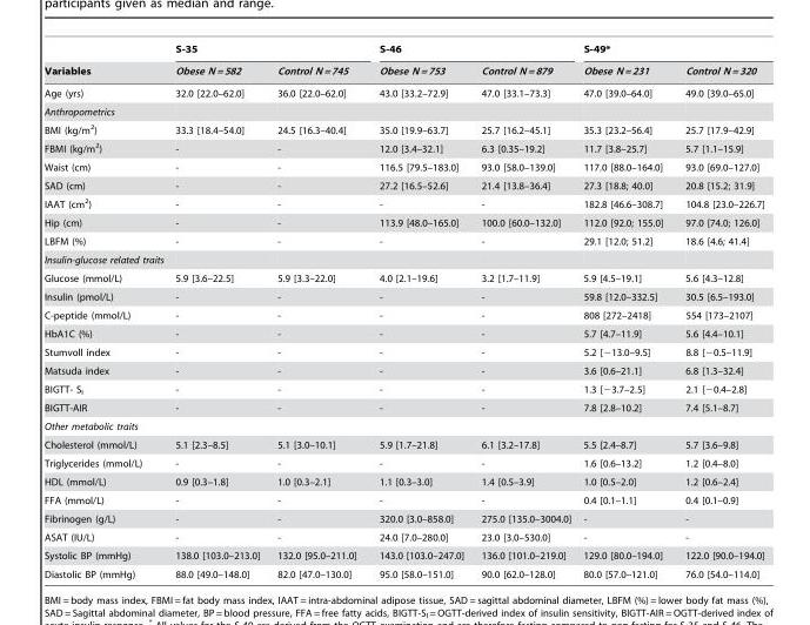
<table><thead><tr><td rowspan="2">Variables</td><td colspan="2">S-35</td><td colspan="2">S-46</td><td colspan="2">S-49*</td></tr><tr><td>Obese N = 582</td><td>Control N = 745</td><td>Obese N = 753</td><td>Control N = 879</td><td>Obese N = 231</td><td>Control N = 320</td></tr></thead><tbody><tr><td>Age (yrs)</td><td>32.0 [22.0–62.0]</td><td>36.0 [22.0–62.0]</td><td>43.0 [33.2–72.9]</td><td>47.0 [33.1–73.3]</td><td>47.0 [39.0–64.0]</td><td>49.0 [39.0–65.0]</td></tr><tr><td colspan="7">Anthropometrics</td></tr><tr><td>BMI (kg/m<sup>2</sup>)</td><td>33.3 [18.4–54.0]</td><td>24.5 [16.3–40.4]</td><td>35.0 [19.9–63.7]</td><td>25.7 [16.2–45.1]</td><td>35.3 [23.2–56.4]</td><td>25.7 [17.9–42.9]</td></tr><tr><td>FBMI (kg/m<sup>2</sup>)</td><td>-</td><td>-</td><td>12.0 [3.4–32.1]</td><td>6.3 [0.35–19.2]</td><td>11.7 [3.8–25.7]</td><td>5.7 [1.1–15.9]</td></tr><tr><td>Waist (cm)</td><td>-</td><td>-</td><td>116.5 [79.5–183.0]</td><td>93.0 [58.0–139.0]</td><td>117.0 [88.0–164.0]</td><td>93.0 [69.0–127.0]</td></tr><tr><td>SAD (cm)</td><td>-</td><td>-</td><td>27.2 [16.5–52.6]</td><td>21.4 [13.8–36.4]</td><td>27.3 [18.8; 40.0]</td><td>20.8 [15.2; 31.9]</td></tr><tr><td>IAAT (cm<sup>2</sup>)</td><td>-</td><td>-</td><td>-</td><td>-</td><td>182.8 [46.6–308.7]</td><td>104.8 [23.0–226.7]</td></tr><tr><td>Hip (cm)</td><td>-</td><td>-</td><td>113.9 [48.0–165.0]</td><td>100.0 [60.0–132.0]</td><td>112.0 [92.0; 155.0]</td><td>97.0 [74.0; 126.0]</td></tr><tr><td>LBFM (%)</td><td>-</td><td>-</td><td>-</td><td>-</td><td>29.1 [12.0; 51.2]</td><td>18.6 [4.6; 41.4]</td></tr><tr><td colspan="7">Insulin-glucose related traits</td></tr><tr><td>Glucose (mmol/L)</td><td>5.9 [3.6–22.5]</td><td>5.9 [3.3–22.0]</td><td>4.0 [2.1–19.6]</td><td>3.2 [1.7–11.9]</td><td>5.9 [4.5–19.1]</td><td>5.6 [4.3–12.8]</td></tr><tr><td>Insulin (pmol/L)</td><td>-</td><td>-</td><td>-</td><td>-</td><td>59.8 [12.0–332.5]</td><td>30.5 [6.5–193.0]</td></tr><tr><td>C-peptide (mmol/L)</td><td>-</td><td>-</td><td>-</td><td>-</td><td>808 [272–2418]</td><td>554 [173–2107]</td></tr><tr><td>HbA1C (%)</td><td>-</td><td>-</td><td>-</td><td>-</td><td>5.7 [4.7–11.9]</td><td>5.6 [4.4–10.1]</td></tr><tr><td>Stumvoll index</td><td>-</td><td>-</td><td>-</td><td>-</td><td>5.2 [−13.0–9.5]</td><td>8.8 [−0.5–11.9]</td></tr><tr><td>Matsuda index</td><td>-</td><td>-</td><td>-</td><td>-</td><td>3.6 [0.6–21.1]</td><td>6.8 [1.3–32.4]</td></tr><tr><td>BIGTT- S<sub>I</sub></td><td>-</td><td>-</td><td>-</td><td>-</td><td>1.3 [−3.7–2.5]</td><td>2.1 [−0.4–2.8]</td></tr><tr><td>BIGTT-AIR</td><td>-</td><td>-</td><td>-</td><td>-</td><td>7.8 [2.8–10.2]</td><td>7.4 [5.1–8.7]</td></tr><tr><td colspan="7">Other metabolic traits</td></tr><tr><td>Cholesterol (mmol/L)</td><td>5.1 [2.3–8.5]</td><td>5.1 [3.0–10.1]</td><td>5.9 [1.7–21.8]</td><td>6.1 [3.2–17.8]</td><td>5.5 [2.4–8.7]</td><td>5.7 [3.6–9.8]</td></tr><tr><td>Triglycerides (mmol/L)</td><td>-</td><td>-</td><td>-</td><td>-</td><td>1.6 [0.6–13.2]</td><td>1.2 [0.4–8.0]</td></tr><tr><td>HDL (mmol/L)</td><td>0.9 [0.3–1.8]</td><td>1.0 [0.3–2.1]</td><td>1.1 [0.3–3.0]</td><td>1.4 [0.5–3.9]</td><td>1.0 [0.5–2.0]</td><td>1.2 [0.6–2.4]</td></tr><tr><td>FFA (mmol/L)</td><td>-</td><td>-</td><td>-</td><td>-</td><td>0.4 [0.1–1.1]</td><td>0.4 [0.1–0.9]</td></tr><tr><td>Fibrinogen (g/L)</td><td>-</td><td>-</td><td>320.0 [3.0–858.0]</td><td>275.0 [135.0–3004.0]</td><td>-</td><td>-</td></tr><tr><td>ASAT (IU/L)</td><td>-</td><td>-</td><td>24.0 [7.0–280.0]</td><td>23.0 [3.0–530.0]</td><td>-</td><td>-</td></tr><tr><td>Systolic BP (mmHg)</td><td>138.0 [103.0–213.0]</td><td>132.0 [95.0–211.0]</td><td>143.0 [103.0–247.0]</td><td>136.0 [101.0–219.0]</td><td>129.0 [80.0–194.0]</td><td>122.0 [90.0–194.0]</td></tr><tr><td>Diastolic BP (mmHg)</td><td>88.0 [49.0–148.0]</td><td>82.0 [47.0–130.0]</td><td>95.0 [58.0–151.0]</td><td>90.0 [62.0–128.0]</td><td>80.0 [57.0–121.0]</td><td>76.0 [54.0–114.0]</td></tr></tbody></table>